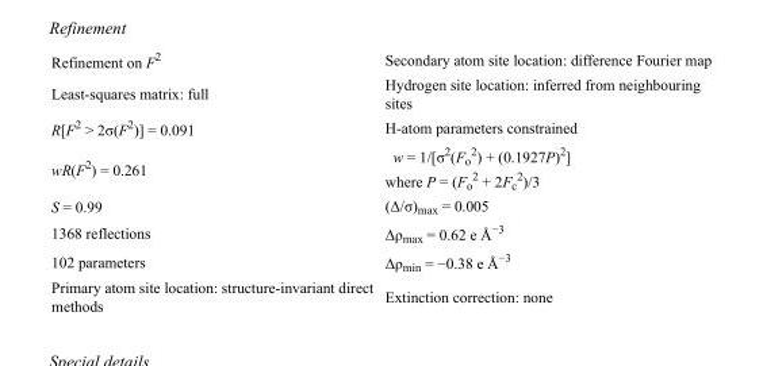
<table><tbody><tr><td>Refinement on F<sup>2</sup></td><td>Secondary atom site location: difference Fourier map</td></tr><tr><td>Least-squares matrix: full</td><td>Hydrogen site location: inferred from neighbouring sites</td></tr><tr><td>R[F<sup>2</sup> &gt; 2σ(F<sup>2</sup>)] = 0.091</td><td>H-atom parameters constrained</td></tr><tr><td>wR(F<sup>2</sup>) = 0.261</td><td>w = 1/[σ<sup>2</sup>(F<sub>o</sub> <sup>2</sup>) + (0.1927P)<sup>2</sup>] where P = (F<sub>o</sub> <sup>2</sup> + 2F<sub>c</sub> <sup>2</sup>)/3</td></tr><tr><td>S = 0.99</td><td>(Δ/σ)<sub>max</sub> = 0.005</td></tr><tr><td>1368 reflections</td><td>Δρ<sub>max</sub> = 0.62 e Å<sup>−3</sup></td></tr><tr><td>102 parameters</td><td>Δρ<sub>min</sub> = −0.38 e Å<sup>−3</sup></td></tr><tr><td>Primary atom site location: structure-invariant direct methods</td><td>Extinction correction: none</td></tr></tbody></table>